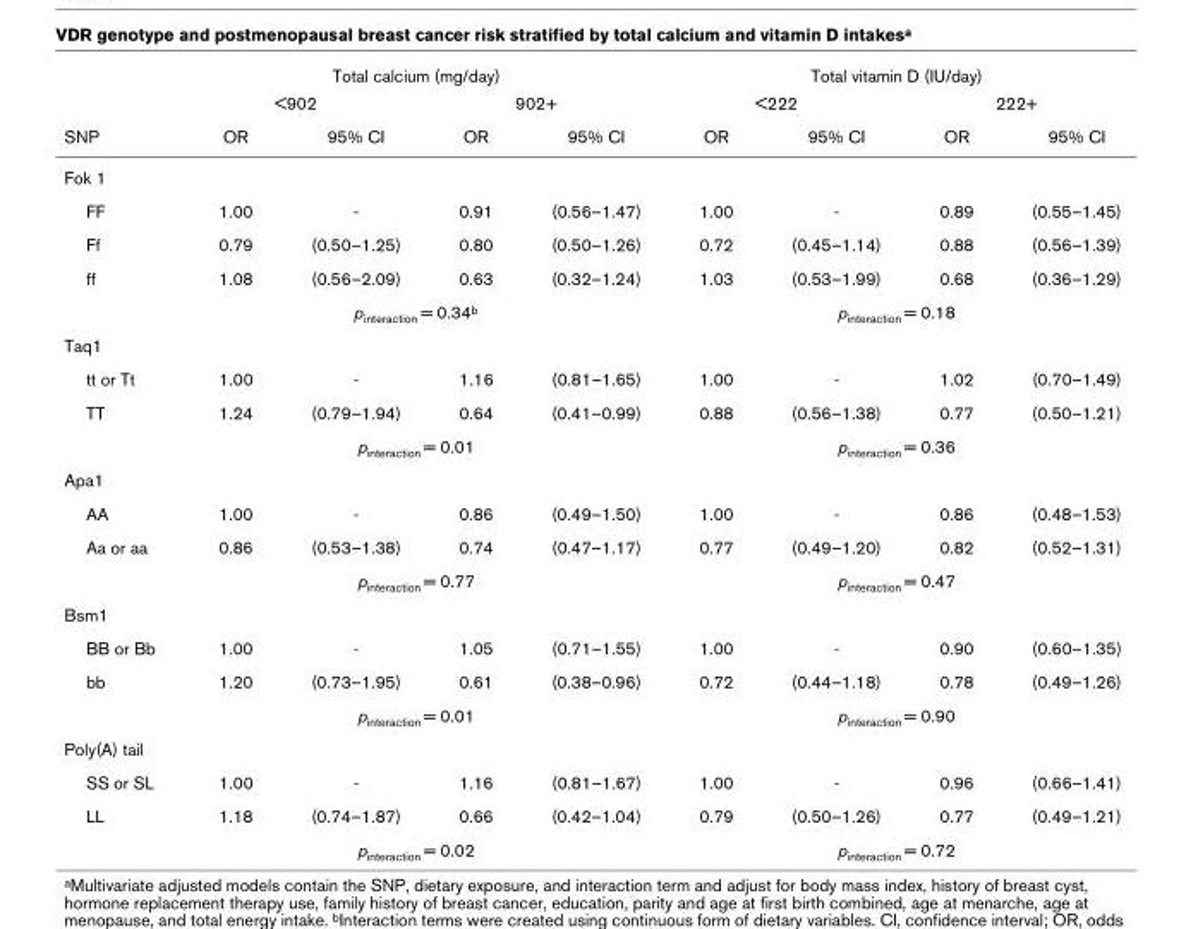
<table><thead><tr><td rowspan="3">SNP</td><td colspan="4">Total calcium (mg/day)</td><td colspan="4">Total vitamin D (IU/day)</td></tr><tr><td colspan="2">&lt;902</td><td colspan="2">902+</td><td colspan="2">&lt;222</td><td colspan="2">222+</td></tr><tr><td>OR</td><td>95% CI</td><td>OR</td><td>95% CI</td><td>OR</td><td>95% CI</td><td>OR</td><td>95% CI</td></tr></thead><tbody><tr><td colspan="9">Fok 1</td></tr><tr><td>FF</td><td>1.00</td><td>-</td><td>0.91</td><td>(0.56–1.47)</td><td>1.00</td><td>-</td><td>0.89</td><td>(0.55–1.45)</td></tr><tr><td>Ff</td><td>0.79</td><td>(0.50–1.25)</td><td>0.80</td><td>(0.50–1.26)</td><td>0.72</td><td>(0.45–1.14)</td><td>0.88</td><td>(0.56–1.39)</td></tr><tr><td rowspan="2">ff</td><td>1.08</td><td>(0.56–2.09)</td><td>0.63</td><td>(0.32–1.24)</td><td>1.03</td><td>(0.53–1.99)</td><td>0.68</td><td>(0.36–1.29)</td></tr><tr><td colspan="4">pinteraction = 0.34b</td><td colspan="4">pinteraction = 0.18</td></tr><tr><td colspan="9">Taq1</td></tr><tr><td>tt or Tt</td><td>1.00</td><td>-</td><td>1.16</td><td>(0.81–1.65)</td><td>1.00</td><td>-</td><td>1.02</td><td>(0.70–1.49)</td></tr><tr><td rowspan="2">TT</td><td>1.24</td><td>(0.79–1.94)</td><td>0.64</td><td>(0.41–0.99)</td><td>0.88</td><td>(0.56–1.38)</td><td>0.77</td><td>(0.50–1.21)</td></tr><tr><td colspan="4">pinteraction = 0.01</td><td colspan="4">pinteraction = 0.36</td></tr><tr><td colspan="9">Apa1</td></tr><tr><td>AA</td><td>1.00</td><td>-</td><td>0.86</td><td>(0.49–1.50)</td><td>1.00</td><td>-</td><td>0.86</td><td>(0.48–1.53)</td></tr><tr><td rowspan="2">Aa or aa</td><td>0.86</td><td>(0.53–1.38)</td><td>0.74</td><td>(0.47–1.17)</td><td>0.77</td><td>(0.49–1.20)</td><td>0.82</td><td>(0.52–1.31)</td></tr><tr><td colspan="4">pinteraction = 0.77</td><td colspan="4">pinteraction = 0.47</td></tr><tr><td colspan="9">Bsm1</td></tr><tr><td>BB or Bb</td><td>1.00</td><td>-</td><td>1.05</td><td>(0.71–1.55)</td><td>1.00</td><td>-</td><td>0.90</td><td>(0.60–1.35)</td></tr><tr><td rowspan="2">bb</td><td>1.20</td><td>(0.73–1.95)</td><td>0.61</td><td>(0.38–0.96)</td><td>0.72</td><td>(0.44–1.18)</td><td>0.78</td><td>(0.49–1.26)</td></tr><tr><td colspan="4">pinteraction = 0.01</td><td colspan="4">pinteraction = 0.90</td></tr><tr><td colspan="9">Poly(A) tail</td></tr><tr><td>SS or SL</td><td>1.00</td><td>-</td><td>1.16</td><td>(0.81–1.67)</td><td>1.00</td><td>-</td><td>0.96</td><td>(0.66–1.41)</td></tr><tr><td rowspan="2">LL</td><td>1.18</td><td>(0.74–1.87)</td><td>0.66</td><td>(0.42–1.04)</td><td>0.79</td><td>(0.50–1.26)</td><td>0.77</td><td>(0.49–1.21)</td></tr><tr><td colspan="4">pinteraction = 0.02</td><td colspan="4">pinteraction = 0.72</td></tr></tbody></table>